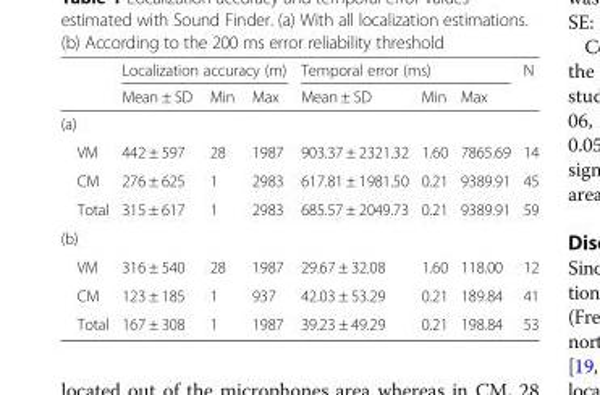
<table><thead><tr><td rowspan="2"></td><td colspan="3">Localization accuracy (m)</td><td colspan="3">Temporal error (ms)</td><td rowspan="2">N</td></tr><tr><td>Mean ± SD</td><td>Min</td><td>Max</td><td>Mean ± SD</td><td>Min</td><td>Max</td></tr></thead><tbody><tr><td colspan="8">(a)</td></tr><tr><td>VM</td><td>442 ± 597</td><td>28</td><td>1987</td><td>903.37 ± 2321.32</td><td>1.60</td><td>7865.69</td><td>14</td></tr><tr><td>CM</td><td>276 ± 625</td><td>1</td><td>2983</td><td>617.81 ± 1981.50</td><td>0.21</td><td>9389.91</td><td>45</td></tr><tr><td>Total</td><td>315 ± 617</td><td>1</td><td>2983</td><td>685.57 ± 2049.73</td><td>0.21</td><td>9389.91</td><td>59</td></tr><tr><td colspan="8">(b)</td></tr><tr><td>VM</td><td>316 ± 540</td><td>28</td><td>1987</td><td>29.67 ± 32.08</td><td>1.60</td><td>118.00</td><td>12</td></tr><tr><td>CM</td><td>123 ± 185</td><td>1</td><td>937</td><td>42.03 ± 53.29</td><td>0.21</td><td>189.84</td><td>41</td></tr><tr><td>Total</td><td>167 ± 308</td><td>1</td><td>1987</td><td>39.23 ± 49.29</td><td>0.21</td><td>198.84</td><td>53</td></tr></tbody></table>